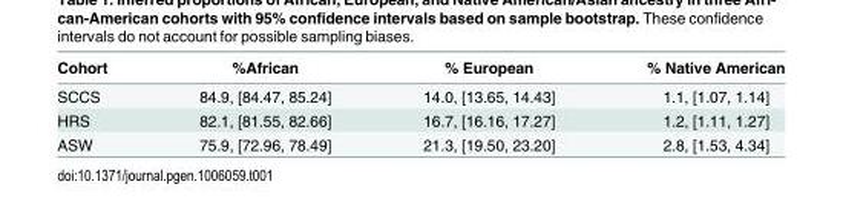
<table><thead><tr><td>Cohort</td><td>%African</td><td>% European</td><td>% Native American</td></tr></thead><tbody><tr><td>SCCS</td><td>84.9, [84.47, 85.24]</td><td>14.0, [13.65, 14.43]</td><td>1.1, [1.07, 1.14]</td></tr><tr><td>HRS</td><td>82.1, [81.55, 82.66]</td><td>16.7, [16.16, 17.27]</td><td>1.2, [1.11, 1.27]</td></tr><tr><td>ASW</td><td>75.9, [72.96, 78.49]</td><td>21.3, [19.50, 23.20]</td><td>2.8, [1.53, 4.34]</td></tr></tbody></table>